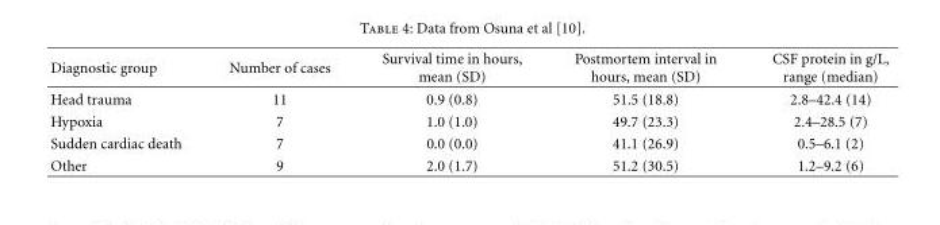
<table><thead><tr><td>Diagnostic group</td><td>Number of cases</td><td>Survival time in hours, mean (SD)</td><td>Postmortem interval in hours, mean (SD)</td><td>CSF protein in g/L, range (median)</td></tr></thead><tbody><tr><td>Head trauma</td><td>11</td><td>0.9 (0.8)</td><td>51.5 (18.8)</td><td>2.8–42.4 (14)</td></tr><tr><td>Hypoxia</td><td>7</td><td>1.0 (1.0)</td><td>49.7 (23.3)</td><td>2.4–28.5 (7)</td></tr><tr><td>Sudden cardiac death</td><td>7</td><td>0.0 (0.0)</td><td>41.1 (26.9)</td><td>0.5–6.1 (2)</td></tr><tr><td>Other</td><td>9</td><td>2.0 (1.7)</td><td>51.2 (30.5)</td><td>1.2–9.2 (6)</td></tr></tbody></table>